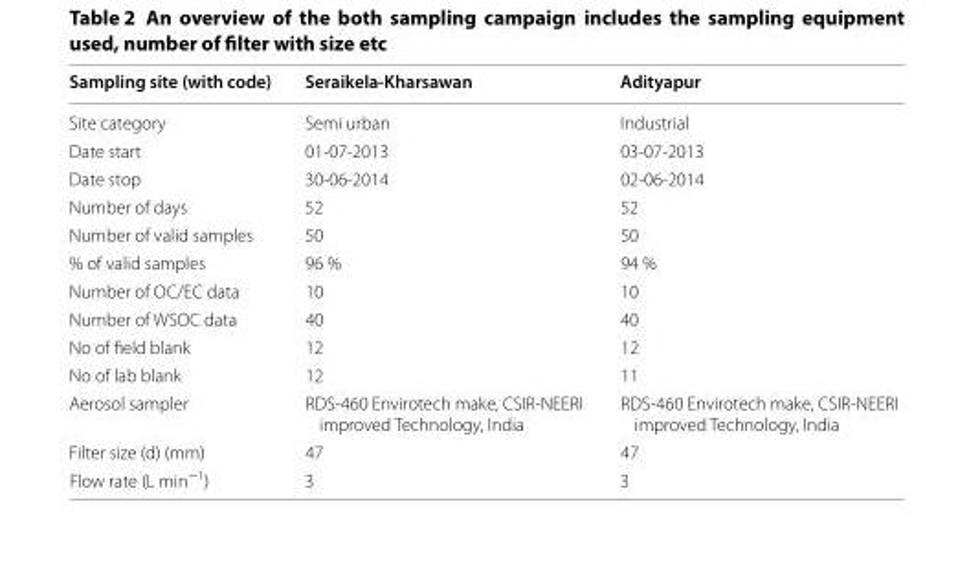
<table><thead><tr><td>Sampling site (with code)</td><td>Seraikela-Kharsawan</td><td>Adityapur</td></tr></thead><tbody><tr><td>Site category</td><td>Semi urban</td><td>Industrial</td></tr><tr><td>Date start</td><td>01-07-2013</td><td>03-07-2013</td></tr><tr><td>Date stop</td><td>30-06-2014</td><td>02-06-2014</td></tr><tr><td>Number of days</td><td>52</td><td>52</td></tr><tr><td>Number of valid samples</td><td>50</td><td>50</td></tr><tr><td>% of valid samples</td><td>96 %</td><td>94 %</td></tr><tr><td>Number of OC/EC data</td><td>10</td><td>10</td></tr><tr><td>Number of WSOC data</td><td>40</td><td>40</td></tr><tr><td>No of field blank</td><td>12</td><td>12</td></tr><tr><td>No of lab blank</td><td>12</td><td>11</td></tr><tr><td>Aerosol sampler</td><td>RDS-460 Envirotech make, CSIR-NEERI improved Technology, India</td><td>RDS-460 Envirotech make, CSIR-NEERI improved Technology, India</td></tr><tr><td>Filter size (d) (mm)</td><td>47</td><td>47</td></tr><tr><td>Flow rate (L min<sup>−1</sup>)</td><td>3</td><td>3</td></tr></tbody></table>